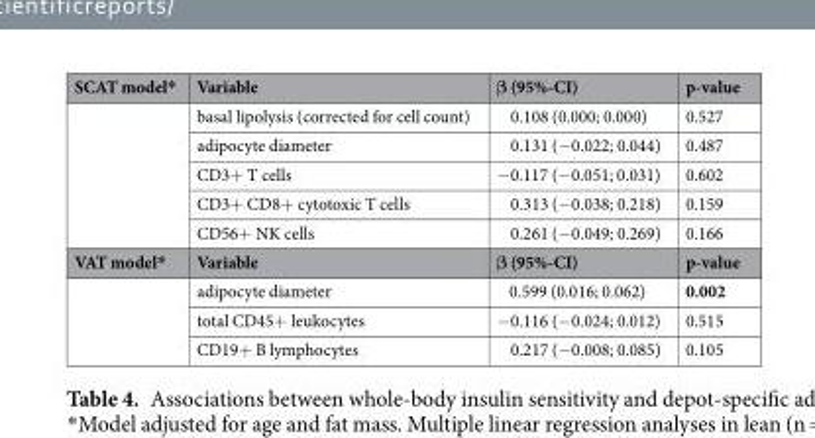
<table><thead><tr><td>SCAT model*</td><td>Variable</td><td>β (95%-CI)</td><td>p-value</td></tr></thead><tbody><tr><td rowspan="5"></td><td>basal lipolysis (corrected for cell count)</td><td>0.108 (0.000; 0.000)</td><td>0.527</td></tr><tr><td>adipocyte diameter</td><td>0.131 (−0.022; 0.044)</td><td>0.487</td></tr><tr><td>CD3+ T cells</td><td>−0.117 (−0.051; 0.031)</td><td>0.602</td></tr><tr><td>CD3+ CD8+ cytotoxic T cells</td><td>0.313 (−0.038; 0.218)</td><td>0.159</td></tr><tr><td>CD56+ NK cells</td><td>0.261 (−0.049; 0.269)</td><td>0.166</td></tr><tr><td rowspan="4">VAT model*</td><td>Variable</td><td>β (95%-CI)</td><td>p-value</td></tr><tr><td>adipocyte diameter</td><td>0.599 (0.016; 0.062)</td><td>0.002</td></tr><tr><td>total CD45+ leukocytes</td><td>−0.116 (−0.024; 0.012)</td><td>0.515</td></tr><tr><td>CD19+ B lymphocytes</td><td>0.217 (−0.008; 0.085)</td><td>0.105</td></tr></tbody></table>